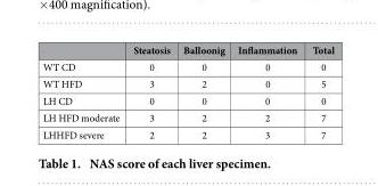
<table><thead><tr><td></td><td>Steatosis</td><td>Balloonig</td><td>Inflammation</td><td>Total</td></tr></thead><tbody><tr><td>WT CD</td><td>0</td><td>0</td><td>0</td><td>0</td></tr><tr><td>WT HFD</td><td>3</td><td>2</td><td>0</td><td>5</td></tr><tr><td>LH CD</td><td>0</td><td>0</td><td>0</td><td>0</td></tr><tr><td>LH HFD moderate</td><td>3</td><td>2</td><td>2</td><td>7</td></tr><tr><td>LHHFD severe</td><td>2</td><td>2</td><td>3</td><td>7</td></tr></tbody></table>